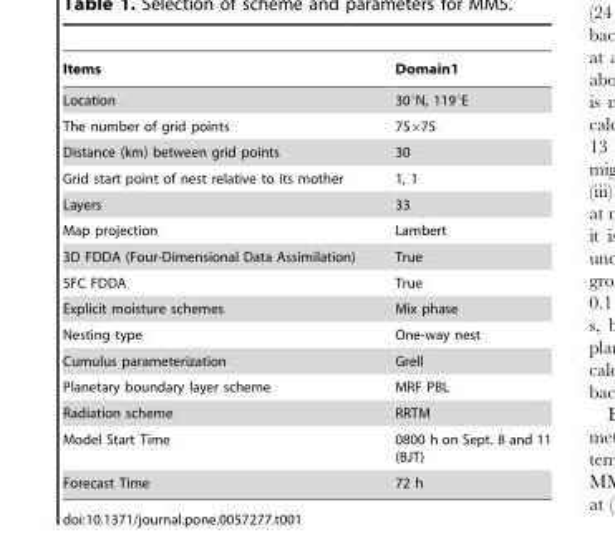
<table><thead><tr><td>Items</td><td>Domain1</td></tr></thead><tbody><tr><td>Location</td><td>30°N, 119°E</td></tr><tr><td>The number of grid points</td><td>75×75</td></tr><tr><td>Distance (km) between grid points</td><td>30</td></tr><tr><td>Grid start point of nest relative to its mother</td><td>1, 1</td></tr><tr><td>Layers</td><td>33</td></tr><tr><td>Map projection</td><td>Lambert</td></tr><tr><td>3D FDDA (Four-Dimensional Data Assimilation)</td><td>True</td></tr><tr><td>SFC FDDA</td><td>True</td></tr><tr><td>Explicit moisture schemes</td><td>Mix phase</td></tr><tr><td>Nesting type</td><td>One-way nest</td></tr><tr><td>Cumulus parameterization</td><td>Grell</td></tr><tr><td>Planetary boundary layer scheme</td><td>MRF PBL</td></tr><tr><td>Radiation scheme</td><td>RRTM</td></tr><tr><td>Model Start Time</td><td>0800 h on Sept. 8 and 11 (BJT)</td></tr><tr><td>Forecast Time</td><td>72 h</td></tr></tbody></table>